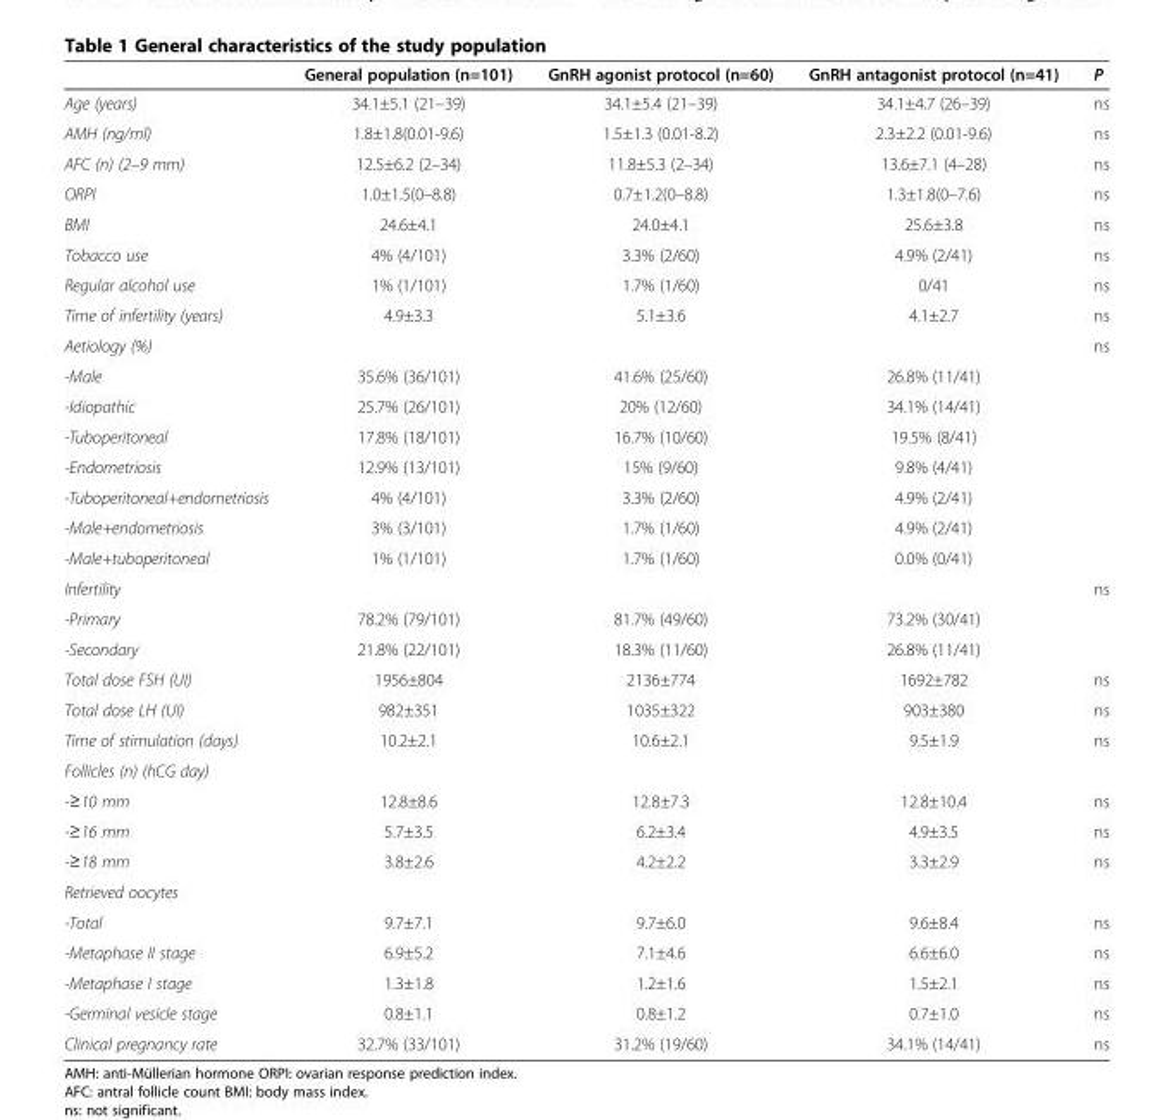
<table><thead><tr><td></td><td>General population (n=101)</td><td>GnRH agonist protocol (n=60)</td><td>GnRH antagonist protocol (n=41)</td><td>P</td></tr></thead><tbody><tr><td>Age (years)</td><td>34.1±5.1 (21–39)</td><td>34.1±5.4 (21–39)</td><td>34.1±4.7 (26–39)</td><td>ns</td></tr><tr><td>AMH (ng/ml)</td><td>1.8±1.8(0.01-9.6)</td><td>1.5±1.3 (0.01-8.2)</td><td>2.3±2.2 (0.01-9.6)</td><td>ns</td></tr><tr><td>AFC (n) (2–9 mm)</td><td>12.5±6.2 (2–34)</td><td>11.8±5.3 (2–34)</td><td>13.6±7.1 (4–28)</td><td>ns</td></tr><tr><td>ORPI</td><td>1.0±1.5(0–8.8)</td><td>0.7±1.2(0–8.8)</td><td>1.3±1.8(0–7.6)</td><td>ns</td></tr><tr><td>BMI</td><td>24.6±4.1</td><td>24.0±4.1</td><td>25.6±3.8</td><td>ns</td></tr><tr><td>Tobacco use</td><td>4% (4/101)</td><td>3.3% (2/60)</td><td>4.9% (2/41)</td><td>ns</td></tr><tr><td>Regular alcohol use</td><td>1% (1/101)</td><td>1.7% (1/60)</td><td>0/41</td><td>ns</td></tr><tr><td>Time of infertility (years)</td><td>4.9±3.3</td><td>5.1±3.6</td><td>4.1±2.7</td><td>ns</td></tr><tr><td>Aetiology (%)</td><td></td><td></td><td></td><td>ns</td></tr><tr><td>-Male</td><td>35.6% (36/101)</td><td>41.6% (25/60)</td><td>26.8% (11/41)</td><td></td></tr><tr><td>-Idiopathic</td><td>25.7% (26/101)</td><td>20% (12/60)</td><td>34.1% (14/41)</td><td></td></tr><tr><td>-Tuboperitoneal</td><td>17.8% (18/101)</td><td>16.7% (10/60)</td><td>19.5% (8/41)</td><td></td></tr><tr><td>-Endometriosis</td><td>12.9% (13/101)</td><td>15% (9/60)</td><td>9.8% (4/41)</td><td></td></tr><tr><td>-Tuboperitoneal+endometriosis</td><td>4% (4/101)</td><td>3.3% (2/60)</td><td>4.9% (2/41)</td><td></td></tr><tr><td>-Male+endometriosis</td><td>3% (3/101)</td><td>1.7% (1/60)</td><td>4.9% (2/41)</td><td></td></tr><tr><td>-Male+tuboperitoneal</td><td>1% (1/101)</td><td>1.7% (1/60)</td><td>0.0% (0/41)</td><td></td></tr><tr><td>Infertility</td><td></td><td></td><td></td><td>ns</td></tr><tr><td>-Primary</td><td>78.2% (79/101)</td><td>81.7% (49/60)</td><td>73.2% (30/41)</td><td></td></tr><tr><td>-Secondary</td><td>21.8% (22/101)</td><td>18.3% (11/60)</td><td>26.8% (11/41)</td><td></td></tr><tr><td>Total dose FSH (UI)</td><td>1956±804</td><td>2136±774</td><td>1692±782</td><td>ns</td></tr><tr><td>Total dose LH (UI)</td><td>982±351</td><td>1035±322</td><td>903±380</td><td>ns</td></tr><tr><td>Time of stimulation (days)</td><td>10.2±2.1</td><td>10.6±2.1</td><td>9.5±1.9</td><td>ns</td></tr><tr><td colspan="5">Follicles (n) (hCG day)</td></tr><tr><td>-≥10 mm</td><td>12.8±8.6</td><td>12.8±7.3</td><td>12.8±10.4</td><td>ns</td></tr><tr><td>-≥16 mm</td><td>5.7±3.5</td><td>6.2±3.4</td><td>4.9±3.5</td><td>ns</td></tr><tr><td>-≥18 mm</td><td>3.8±2.6</td><td>4.2±2.2</td><td>3.3±2.9</td><td>ns</td></tr><tr><td colspan="5">Retrieved oocytes</td></tr><tr><td>-Total</td><td>9.7±7.1</td><td>9.7±6.0</td><td>9.6±8.4</td><td>ns</td></tr><tr><td>-Metaphase II stage</td><td>6.9±5.2</td><td>7.1±4.6</td><td>6.6±6.0</td><td>ns</td></tr><tr><td>-Metaphase I stage</td><td>1.3±1.8</td><td>1.2±1.6</td><td>1.5±2.1</td><td>ns</td></tr><tr><td>-Germinal vesicle stage</td><td>0.8±1.1</td><td>0.8±1.2</td><td>0.7±1.0</td><td>ns</td></tr><tr><td>Clinical pregnancy rate</td><td>32.7% (33/101)</td><td>31.2% (19/60)</td><td>34.1% (14/41)</td><td>ns</td></tr></tbody></table>